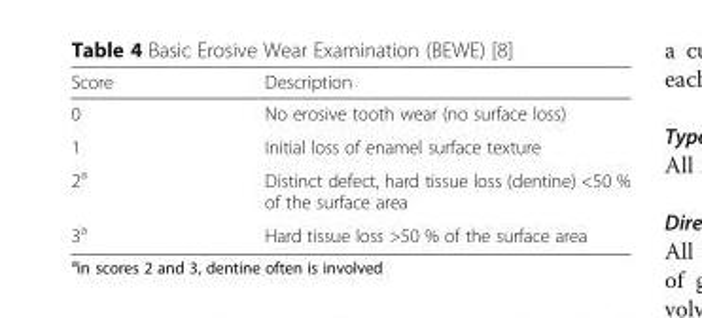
<table><thead><tr><td>Score</td><td>Description</td></tr></thead><tbody><tr><td>0</td><td>No erosive tooth wear (no surface loss)</td></tr><tr><td>1</td><td>Initial loss of enamel surface texture</td></tr><tr><td>2<sup>a</sup></td><td>Distinct defect, hard tissue loss (dentine) &lt;50 % of the surface area</td></tr><tr><td>3<sup>a</sup></td><td>Hard tissue loss &gt;50 % of the surface area</td></tr></tbody></table>